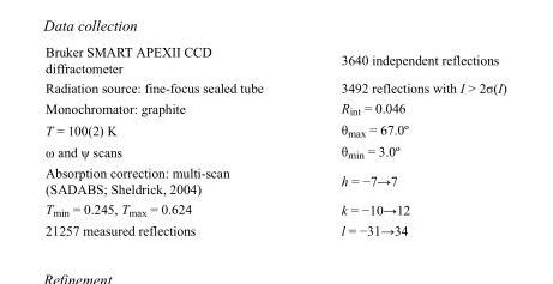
<table><tbody><tr><td>Bruker SMART APEXII CCD diffractometer</td><td>3640 independent reflections</td></tr><tr><td>Radiation source: fine-focus sealed tube</td><td>3492 reflections with I &gt; 2σ(I)</td></tr><tr><td>Monochromator: graphite</td><td>R<sub>int</sub> = 0.046</td></tr><tr><td>T = 100(2) K</td><td>θ<sub>max</sub> = 67.0º</td></tr><tr><td>ω and ψ scans</td><td>θ<sub>min</sub> = 3.0º</td></tr><tr><td>Absorption correction: multi-scan (SADABS; Sheldrick, 2004)</td><td>h = −7→7</td></tr><tr><td>T<sub>min</sub> = 0.245, T<sub>max</sub> = 0.624</td><td>k = −10→12</td></tr><tr><td>21257 measured reflections</td><td>l = −31→34</td></tr></tbody></table>